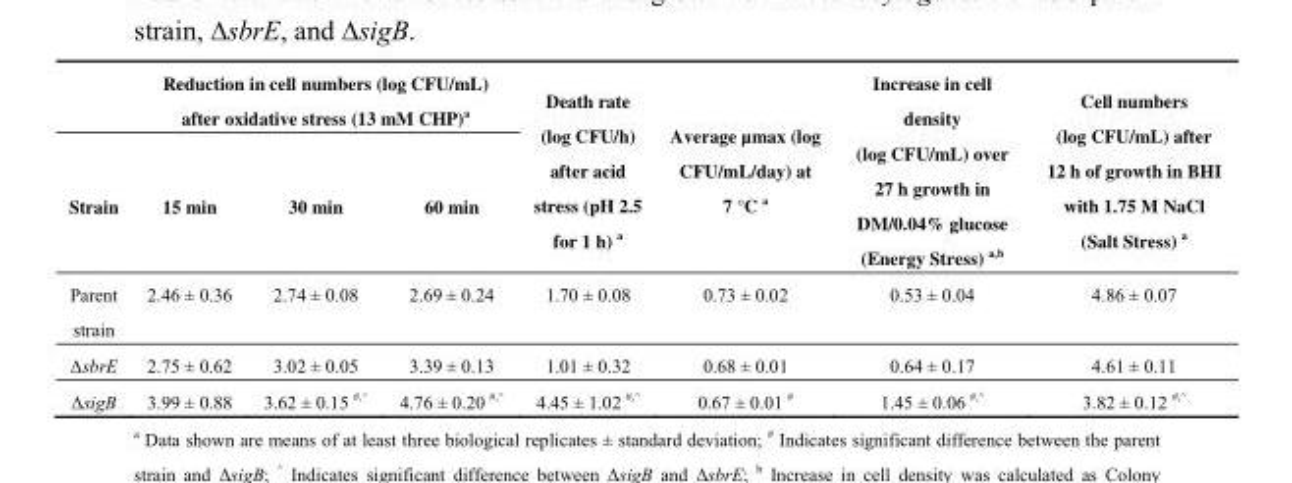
<table><thead><tr><td colspan="4">Reduction in cell numbers (log CFU/mL) after oxidative stress (13 mM CHP)<sup>a</sup></td><td rowspan="2">Death rate (log CFU/h) after acid stress (pH 2.5 for 1 h) a</td><td rowspan="2">Average µmax (log CFU/mL/day) at 7 °C a</td><td rowspan="2">Increase in cell density (log CFU/mL) over 27 h growth in DM/0.04% glucose (Energy Stress) a,b</td><td rowspan="2">Cell numbers (log CFU/mL) after 12 h of growth in BHI with 1.75 M NaCl (Salt Stress) a</td></tr><tr><td>Strain</td><td>15 min</td><td>30 min</td><td>60 min</td></tr></thead><tbody><tr><td>Parent strain</td><td>2.46 ± 0.36</td><td>2.74 ± 0.08</td><td>2.69 ± 0.24</td><td>1.70 ± 0.08</td><td>0.73 ± 0.02</td><td>0.53 ± 0.04</td><td>4.86 ± 0.07</td></tr><tr><td>ΔsbrE</td><td>2.75 ± 0.62</td><td>3.02 ± 0.05</td><td>3.39 ± 0.13</td><td>1.01 ± 0.32</td><td>0.68 ± 0.01</td><td>0.64 ± 0.17</td><td>4.61 ± 0.11</td></tr><tr><td>ΔsigB</td><td>3.99 ± 0.88</td><td>3.62 ± 0.15 #,^</td><td>4.76 ± 0.20 #,^</td><td>4.45 ± 1.02 #,^</td><td>0.67 ± 0.01 #</td><td>1.45 ± 0.06 #,^</td><td>3.82 ± 0.12 #,^</td></tr></tbody></table>